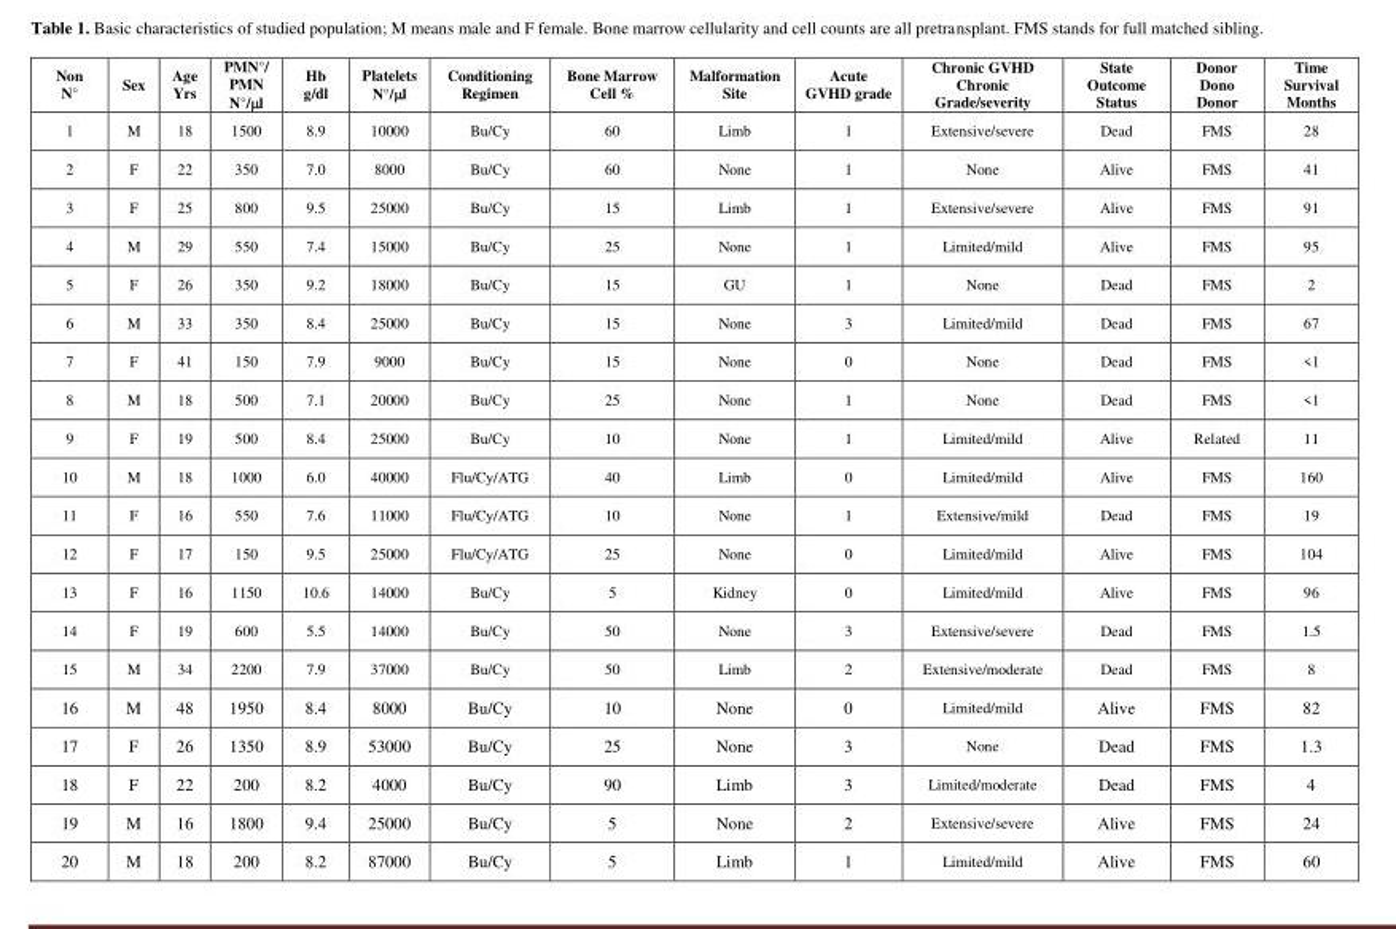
<table><thead><tr><td>Non N°</td><td>Sex</td><td>Age Yrs</td><td>PMN°/ PMN N°/μl</td><td>Hb g/dl</td><td>Platelets N°/μl</td><td>Conditioning Regimen</td><td>Bone Marrow Cell %</td><td>Malformation Site</td><td>Acute GVHD grade</td><td>Chronic GVHD Chronic Grade/severity</td><td>State Outcome Status</td><td>Donor Dono Donor</td><td>Time Survival Months</td></tr></thead><tbody><tr><td>1</td><td>M</td><td>18</td><td>1500</td><td>8.9</td><td>10000</td><td>Bu/Cy</td><td>60</td><td>Limb</td><td>1</td><td>Extensive/severe</td><td>Dead</td><td>FMS</td><td>28</td></tr><tr><td>2</td><td>F</td><td>22</td><td>350</td><td>7.0</td><td>8000</td><td>Bu/Cy</td><td>60</td><td>None</td><td>1</td><td>None</td><td>Alive</td><td>FMS</td><td>41</td></tr><tr><td>3</td><td>F</td><td>25</td><td>800</td><td>9.5</td><td>25000</td><td>Bu/Cy</td><td>15</td><td>Limb</td><td>1</td><td>Extensive/severe</td><td>Alive</td><td>FMS</td><td>91</td></tr><tr><td>4</td><td>M</td><td>29</td><td>550</td><td>7.4</td><td>15000</td><td>Bu/Cy</td><td>25</td><td>None</td><td>1</td><td>Limited/mild</td><td>Alive</td><td>FMS</td><td>95</td></tr><tr><td>5</td><td>F</td><td>26</td><td>350</td><td>9.2</td><td>18000</td><td>Bu/Cy</td><td>15</td><td>GU</td><td>1</td><td>None</td><td>Dead</td><td>FMS</td><td>2</td></tr><tr><td>6</td><td>M</td><td>33</td><td>350</td><td>8.4</td><td>25000</td><td>Bu/Cy</td><td>15</td><td>None</td><td>3</td><td>Limited/mild</td><td>Dead</td><td>FMS</td><td>67</td></tr><tr><td>7</td><td>F</td><td>41</td><td>150</td><td>7.9</td><td>9000</td><td>Bu/Cy</td><td>15</td><td>None</td><td>0</td><td>None</td><td>Dead</td><td>FMS</td><td>&lt;1</td></tr><tr><td>8</td><td>M</td><td>18</td><td>500</td><td>7.1</td><td>20000</td><td>Bu/Cy</td><td>25</td><td>None</td><td>1</td><td>None</td><td>Dead</td><td>FMS</td><td>&lt;1</td></tr><tr><td>9</td><td>F</td><td>19</td><td>500</td><td>8.4</td><td>25000</td><td>Bu/Cy</td><td>10</td><td>None</td><td>1</td><td>Limited/mild</td><td>Alive</td><td>Related</td><td>11</td></tr><tr><td>10</td><td>M</td><td>18</td><td>1000</td><td>6.0</td><td>40000</td><td>Flu/Cy/ATG</td><td>40</td><td>Limb</td><td>0</td><td>Limited/mild</td><td>Alive</td><td>FMS</td><td>160</td></tr><tr><td>11</td><td>F</td><td>16</td><td>550</td><td>7.6</td><td>11000</td><td>Flu/Cy/ATG</td><td>10</td><td>None</td><td>1</td><td>Extensive/mild</td><td>Dead</td><td>FMS</td><td>19</td></tr><tr><td>12</td><td>F</td><td>17</td><td>150</td><td>9.5</td><td>25000</td><td>Flu/Cy/ATG</td><td>25</td><td>None</td><td>0</td><td>Limited/mild</td><td>Alive</td><td>FMS</td><td>104</td></tr><tr><td>13</td><td>F</td><td>16</td><td>1150</td><td>10.6</td><td>14000</td><td>Bu/Cy</td><td>5</td><td>Kidney</td><td>0</td><td>Limited/mild</td><td>Alive</td><td>FMS</td><td>96</td></tr><tr><td>14</td><td>F</td><td>19</td><td>600</td><td>5.5</td><td>14000</td><td>Bu/Cy</td><td>50</td><td>None</td><td>3</td><td>Extensive/severe</td><td>Dead</td><td>FMS</td><td>1.5</td></tr><tr><td>15</td><td>M</td><td>34</td><td>2200</td><td>7.9</td><td>37000</td><td>Bu/Cy</td><td>50</td><td>Limb</td><td>2</td><td>Extensive/moderate</td><td>Dead</td><td>FMS</td><td>8</td></tr><tr><td>16</td><td>M</td><td>48</td><td>1950</td><td>8.4</td><td>8000</td><td>Bu/Cy</td><td>10</td><td>None</td><td>0</td><td>Limited/mild</td><td>Alive</td><td>FMS</td><td>82</td></tr><tr><td>17</td><td>F</td><td>26</td><td>1350</td><td>8.9</td><td>53000</td><td>Bu/Cy</td><td>25</td><td>None</td><td>3</td><td>None</td><td>Dead</td><td>FMS</td><td>1.3</td></tr><tr><td>18</td><td>F</td><td>22</td><td>200</td><td>8.2</td><td>4000</td><td>Bu/Cy</td><td>90</td><td>Limb</td><td>3</td><td>Limited/moderate</td><td>Dead</td><td>FMS</td><td>4</td></tr><tr><td>19</td><td>M</td><td>16</td><td>1800</td><td>9.4</td><td>25000</td><td>Bu/Cy</td><td>5</td><td>None</td><td>2</td><td>Extensive/severe</td><td>Alive</td><td>FMS</td><td>24</td></tr><tr><td>20</td><td>M</td><td>18</td><td>200</td><td>8.2</td><td>87000</td><td>Bu/Cy</td><td>5</td><td>Limb</td><td>1</td><td>Limited/mild</td><td>Alive</td><td>FMS</td><td>60</td></tr></tbody></table>